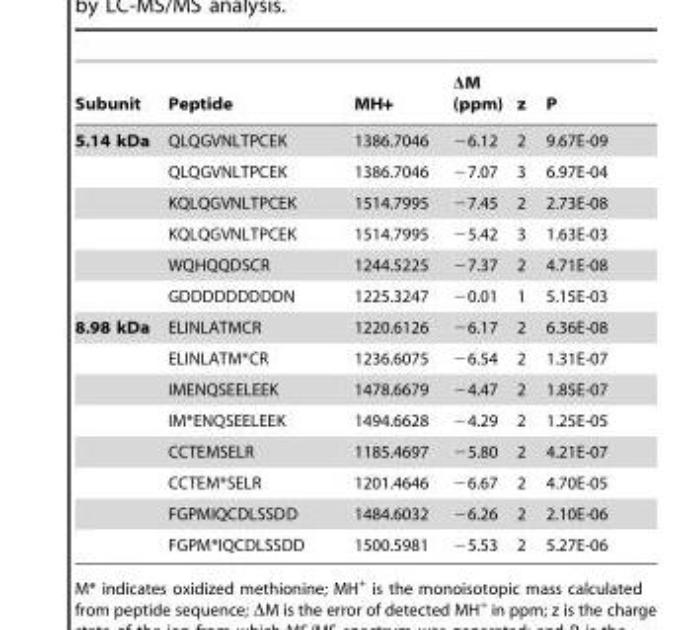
<table><thead><tr><td>Subunit</td><td>Peptide</td><td>MH+</td><td>ΔM (ppm)</td><td>z</td><td>P</td></tr></thead><tbody><tr><td rowspan="6">5.14 kDa</td><td>QLQGVNLTPCEK</td><td>1386.7046</td><td>−6.12</td><td>2</td><td>9.67E-09</td></tr><tr><td>QLQGVNLTPCEK</td><td>1386.7046</td><td>−7.07</td><td>3</td><td>6.97E-04</td></tr><tr><td>KQLQGVNLTPCEK</td><td>1514.7995</td><td>−7.45</td><td>2</td><td>2.73E-08</td></tr><tr><td>KQLQGVNLTPCEK</td><td>1514.7995</td><td>−5.42</td><td>3</td><td>1.63E-03</td></tr><tr><td>WQHQQDSCR</td><td>1244.5225</td><td>−7.37</td><td>2</td><td>4.71E-08</td></tr><tr><td>GDDDDDDDDDN</td><td>1225.3247</td><td>−0.01</td><td>1</td><td>5.15E-03</td></tr><tr><td rowspan="8">8.98 kDa</td><td>ELINLATMCR</td><td>1220.6126</td><td>−6.17</td><td>2</td><td>6.36E-08</td></tr><tr><td>ELINLATM*CR</td><td>1236.6075</td><td>−6.54</td><td>2</td><td>1.31E-07</td></tr><tr><td>IMENQSEELEEK</td><td>1478.6679</td><td>−4.47</td><td>2</td><td>1.85E-07</td></tr><tr><td>IM*ENQSEELEEK</td><td>1494.6628</td><td>−4.29</td><td>2</td><td>1.25E-05</td></tr><tr><td>CCTEMSELR</td><td>1185.4697</td><td>−5.80</td><td>2</td><td>4.21E-07</td></tr><tr><td>CCTEM*SELR</td><td>1201.4646</td><td>−6.67</td><td>2</td><td>4.70E-05</td></tr><tr><td>FGPMIQCDLSSDD</td><td>1484.6032</td><td>−6.26</td><td>2</td><td>2.10E-06</td></tr><tr><td>FGPM*IQCDLSSDD</td><td>1500.5981</td><td>−5.53</td><td>2</td><td>5.27E-06</td></tr></tbody></table>